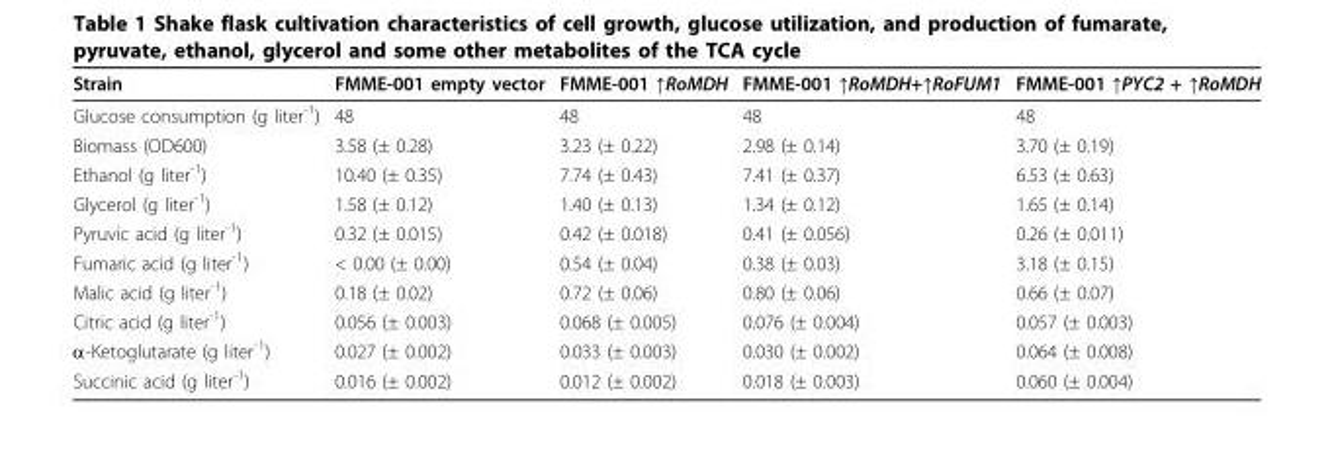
<table><thead><tr><td>Strain</td><td>FMME-001 empty vector</td><td>FMME-001 ↑RoMDH</td><td>FMME-001 ↑RoMDH+↑RoFUM1</td><td>FMME-001 ↑PYC2 + ↑RoMDH</td></tr></thead><tbody><tr><td>Glucose consumption (g liter<sup>-1</sup>)</td><td>48</td><td>48</td><td>48</td><td>48</td></tr><tr><td>Biomass (OD600)</td><td>3.58 (± 0.28)</td><td>3.23 (± 0.22)</td><td>2.98 (± 0.14)</td><td>3.70 (± 0.19)</td></tr><tr><td>Ethanol (g liter<sup>-1</sup>)</td><td>10.40 (± 0.35)</td><td>7.74 (± 0.43)</td><td>7.41 (± 0.37)</td><td>6.53 (± 0.63)</td></tr><tr><td>Glycerol (g liter<sup>-1</sup>)</td><td>1.58 (± 0.12)</td><td>1.40 (± 0.13)</td><td>1.34 (± 0.12)</td><td>1.65 (± 0.14)</td></tr><tr><td>Pyruvic acid (g liter<sup>-1</sup>)</td><td>0.32 (± 0.015)</td><td>0.42 (± 0.018)</td><td>0.41 (± 0.056)</td><td>0.26 (± 0.011)</td></tr><tr><td>Fumaric acid (g liter<sup>-1</sup>)</td><td>&lt; 0.00 (± 0.00)</td><td>0.54 (± 0.04)</td><td>0.38 (± 0.03)</td><td>3.18 (± 0.15)</td></tr><tr><td>Malic acid (g liter<sup>-1</sup>)</td><td>0.18 (± 0.02)</td><td>0.72 (± 0.06)</td><td>0.80 (± 0.06)</td><td>0.66 (± 0.07)</td></tr><tr><td>Citric acid (g liter<sup>-1</sup>)</td><td>0.056 (± 0.003)</td><td>0.068 (± 0.005)</td><td>0.076 (± 0.004)</td><td>0.057 (± 0.003)</td></tr><tr><td>α-Ketoglutarate (g liter<sup>-1</sup>)</td><td>0.027 (± 0.002)</td><td>0.033 (± 0.003)</td><td>0.030 (± 0.002)</td><td>0.064 (± 0.008)</td></tr><tr><td>Succinic acid (g liter<sup>-1</sup>)</td><td>0.016 (± 0.002)</td><td>0.012 (± 0.002)</td><td>0.018 (± 0.003)</td><td>0.060 (± 0.004)</td></tr></tbody></table>